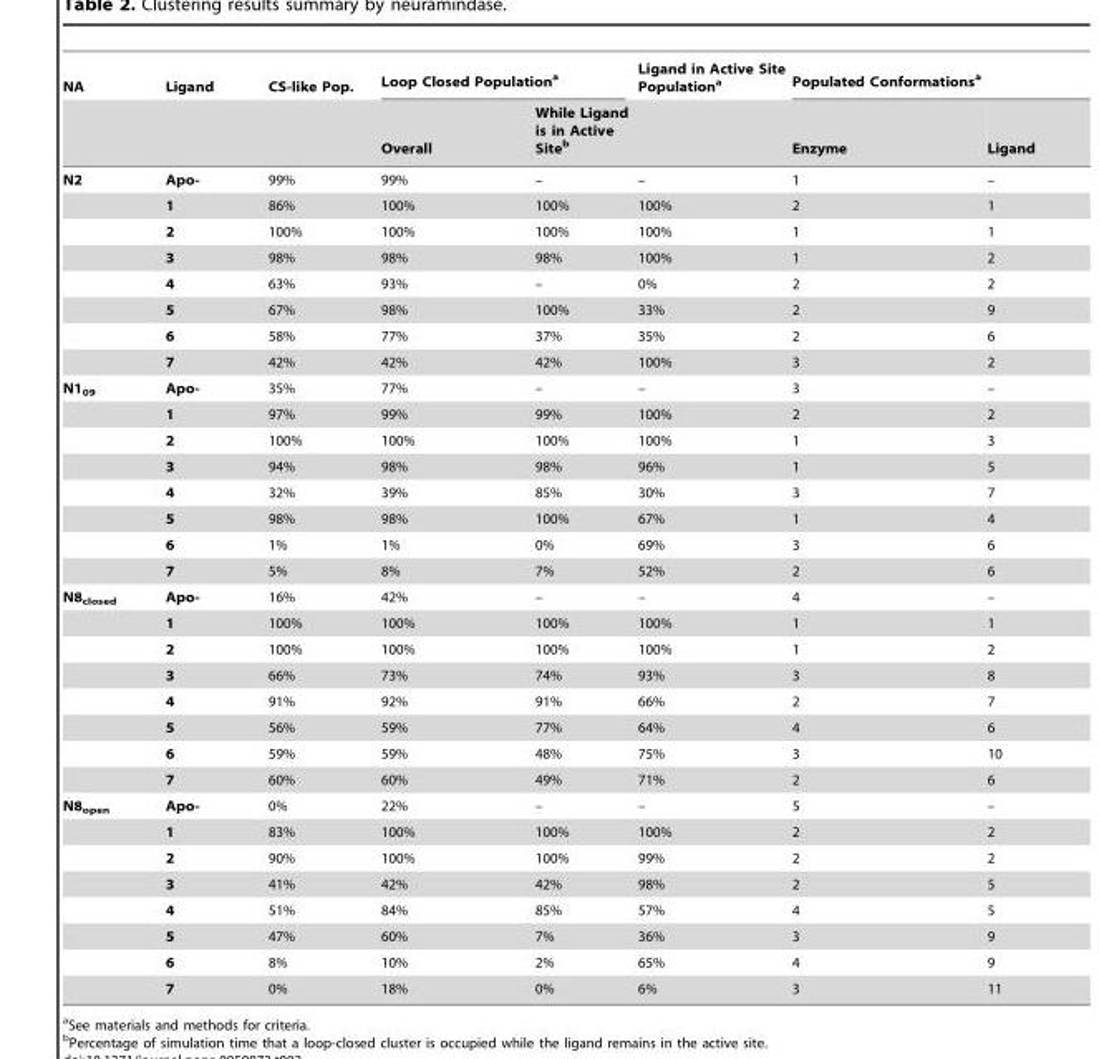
<table><thead><tr><td rowspan="2">NA</td><td rowspan="2">Ligand</td><td rowspan="2">CS-like Pop.</td><td colspan="2">Loop Closed Population<sup>a</sup></td><td rowspan="2">Ligand in Active Site Population<sup>a</sup></td><td colspan="2">Populated Conformations<sup>a</sup></td></tr><tr><td>Overall</td><td>While Ligand is in Active Site<sup>b</sup></td><td>Enzyme</td><td>Ligand</td></tr></thead><tbody><tr><td rowspan="8">N2</td><td>Apo-</td><td>99%</td><td>99%</td><td>–</td><td>–</td><td>1</td><td>–</td></tr><tr><td>1</td><td>86%</td><td>100%</td><td>100%</td><td>100%</td><td>2</td><td>1</td></tr><tr><td>2</td><td>100%</td><td>100%</td><td>100%</td><td>100%</td><td>1</td><td>1</td></tr><tr><td>3</td><td>98%</td><td>98%</td><td>98%</td><td>100%</td><td>1</td><td>2</td></tr><tr><td>4</td><td>63%</td><td>93%</td><td>–</td><td>0%</td><td>2</td><td>2</td></tr><tr><td>5</td><td>67%</td><td>98%</td><td>100%</td><td>33%</td><td>2</td><td>9</td></tr><tr><td>6</td><td>58%</td><td>77%</td><td>37%</td><td>35%</td><td>2</td><td>6</td></tr><tr><td>7</td><td>42%</td><td>42%</td><td>42%</td><td>100%</td><td>3</td><td>2</td></tr><tr><td rowspan="8">N1<sub>09</sub></td><td>Apo-</td><td>35%</td><td>77%</td><td>–</td><td>–</td><td>3</td><td>–</td></tr><tr><td>1</td><td>97%</td><td>99%</td><td>99%</td><td>100%</td><td>2</td><td>2</td></tr><tr><td>2</td><td>100%</td><td>100%</td><td>100%</td><td>100%</td><td>1</td><td>3</td></tr><tr><td>3</td><td>94%</td><td>98%</td><td>98%</td><td>96%</td><td>1</td><td>5</td></tr><tr><td>4</td><td>32%</td><td>39%</td><td>85%</td><td>30%</td><td>3</td><td>7</td></tr><tr><td>5</td><td>98%</td><td>98%</td><td>100%</td><td>67%</td><td>1</td><td>4</td></tr><tr><td>6</td><td>1%</td><td>1%</td><td>0%</td><td>69%</td><td>3</td><td>6</td></tr><tr><td>7</td><td>5%</td><td>8%</td><td>7%</td><td>52%</td><td>2</td><td>6</td></tr><tr><td rowspan="8">N8<sub>closed</sub></td><td>Apo-</td><td>16%</td><td>42%</td><td>–</td><td>–</td><td>4</td><td>–</td></tr><tr><td>1</td><td>100%</td><td>100%</td><td>100%</td><td>100%</td><td>1</td><td>1</td></tr><tr><td>2</td><td>100%</td><td>100%</td><td>100%</td><td>100%</td><td>1</td><td>2</td></tr><tr><td>3</td><td>66%</td><td>73%</td><td>74%</td><td>93%</td><td>3</td><td>8</td></tr><tr><td>4</td><td>91%</td><td>92%</td><td>91%</td><td>66%</td><td>2</td><td>7</td></tr><tr><td>5</td><td>56%</td><td>59%</td><td>77%</td><td>64%</td><td>4</td><td>6</td></tr><tr><td>6</td><td>59%</td><td>59%</td><td>48%</td><td>75%</td><td>3</td><td>10</td></tr><tr><td>7</td><td>60%</td><td>60%</td><td>49%</td><td>71%</td><td>2</td><td>6</td></tr><tr><td rowspan="8">N8<sub>open</sub></td><td>Apo-</td><td>0%</td><td>22%</td><td>–</td><td>–</td><td>5</td><td>–</td></tr><tr><td>1</td><td>83%</td><td>100%</td><td>100%</td><td>100%</td><td>2</td><td>2</td></tr><tr><td>2</td><td>90%</td><td>100%</td><td>100%</td><td>99%</td><td>2</td><td>2</td></tr><tr><td>3</td><td>41%</td><td>42%</td><td>42%</td><td>98%</td><td>2</td><td>5</td></tr><tr><td>4</td><td>51%</td><td>84%</td><td>85%</td><td>57%</td><td>4</td><td>5</td></tr><tr><td>5</td><td>47%</td><td>60%</td><td>7%</td><td>36%</td><td>3</td><td>9</td></tr><tr><td>6</td><td>8%</td><td>10%</td><td>2%</td><td>65%</td><td>4</td><td>9</td></tr><tr><td>7</td><td>0%</td><td>18%</td><td>0%</td><td>6%</td><td>3</td><td>11</td></tr></tbody></table>